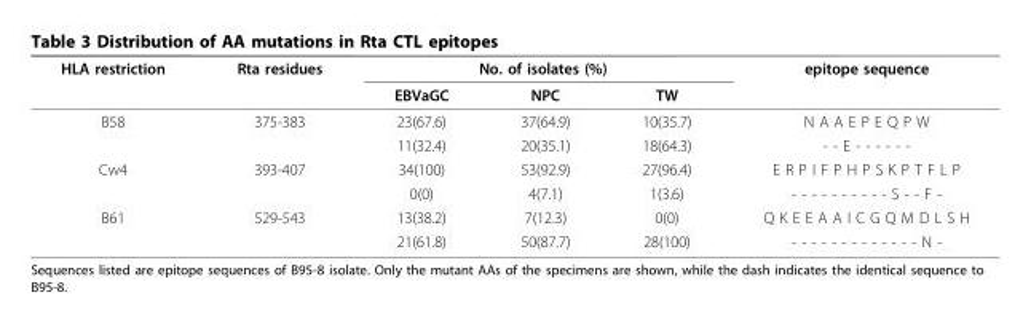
<table><thead><tr><td rowspan="2">HLA restriction</td><td rowspan="2">Rta residues</td><td colspan="3">No. of isolates (%)</td><td rowspan="2">epitope sequence</td></tr><tr><td>EBVaGC</td><td>NPC</td><td>TW</td></tr></thead><tbody><tr><td rowspan="2">B58</td><td>375-383</td><td>23(67.6)</td><td>37(64.9)</td><td>10(35.7)</td><td>N A A E P E Q P W</td></tr><tr><td></td><td>11(32.4)</td><td>20(35.1)</td><td>18(64.3)</td><td>- - E - - - - - -</td></tr><tr><td rowspan="2">Cw4</td><td>393-407</td><td>34(100)</td><td>53(92.9)</td><td>27(96.4)</td><td>E R P I F P H P S K P T F L P</td></tr><tr><td></td><td>0(0)</td><td>4(7.1)</td><td>1(3.6)</td><td>- - - - - - - - - - S - - F -</td></tr><tr><td rowspan="2">B61</td><td>529-543</td><td>13(38.2)</td><td>7(12.3)</td><td>0(0)</td><td>Q K E E A A I C G Q M D L S H</td></tr><tr><td></td><td>21(61.8)</td><td>50(87.7)</td><td>28(100)</td><td>- - - - - - - - - - - - - N -</td></tr></tbody></table>